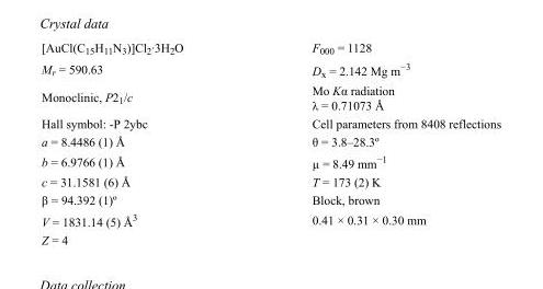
<table><tbody><tr><td>[AuCl(C<sub>15</sub>H<sub>11</sub>N<sub>3</sub>)]Cl<sub>2</sub>·3H<sub>2</sub>O</td><td>F000 = 1128</td></tr><tr><td>M<sub>r</sub> = 590.63</td><td>D<sub>x</sub> = 2.142 Mg m<sup>−3</sup></td></tr><tr><td>Monoclinic, P2<sub>1</sub>/c</td><td>Mo Kα radiation λ = 0.71073 Å</td></tr><tr><td>Hall symbol: -P 2ybc</td><td>Cell parameters from 8408 reflections</td></tr><tr><td>a = 8.4486 (1) Å</td><td>θ = 3.8–28.3º</td></tr><tr><td>b = 6.9766 (1) Å</td><td>µ = 8.49 mm<sup>−1</sup></td></tr><tr><td>c = 31.1581 (6) Å</td><td>T = 173 (2) K</td></tr><tr><td>β = 94.392 (1)º</td><td>Block, brown</td></tr><tr><td>V = 1831.14 (5) Å<sup>3</sup></td><td>0.41 × 0.31 × 0.30 mm</td></tr><tr><td>Z = 4</td><td></td></tr></tbody></table>